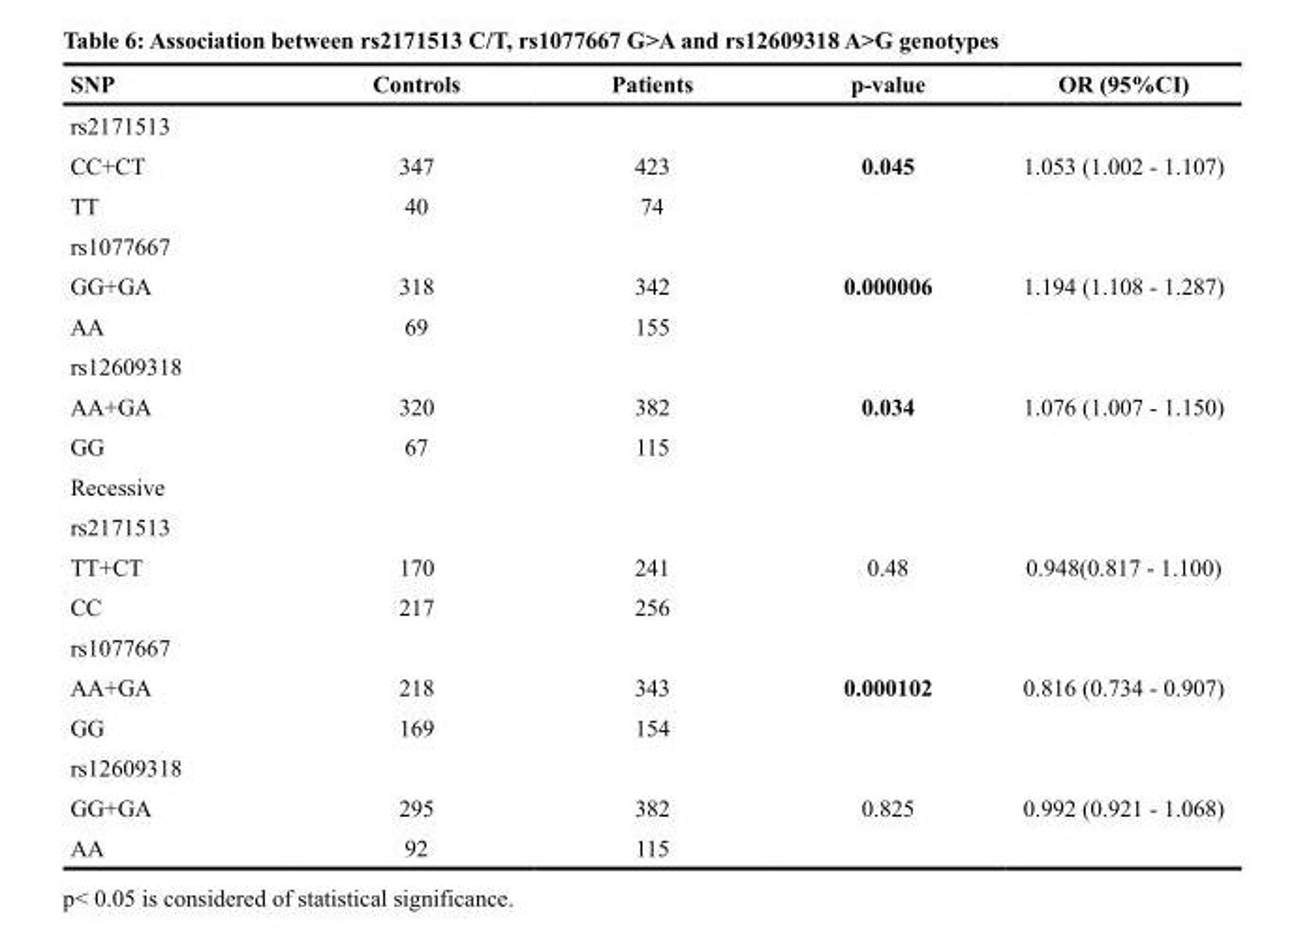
<table><thead><tr><td>SNP</td><td>Controls</td><td>Patients</td><td>p-value</td><td>OR (95%CI)</td></tr></thead><tbody><tr><td colspan="5">rs2171513</td></tr><tr><td>CC+CT</td><td>347</td><td>423</td><td>0.045</td><td>1.053 (1.002 - 1.107)</td></tr><tr><td>TT</td><td>40</td><td>74</td><td></td><td></td></tr><tr><td colspan="5">rs1077667</td></tr><tr><td>GG+GA</td><td>318</td><td>342</td><td>0.000006</td><td>1.194 (1.108 - 1.287)</td></tr><tr><td>AA</td><td>69</td><td>155</td><td></td><td></td></tr><tr><td colspan="5">rs12609318</td></tr><tr><td>AA+GA</td><td>320</td><td>382</td><td>0.034</td><td>1.076 (1.007 - 1.150)</td></tr><tr><td>GG</td><td>67</td><td>115</td><td></td><td></td></tr><tr><td colspan="5">Recessive</td></tr><tr><td colspan="5">rs2171513</td></tr><tr><td>TT+CT</td><td>170</td><td>241</td><td>0.48</td><td>0.948(0.817 - 1.100)</td></tr><tr><td>CC</td><td>217</td><td>256</td><td></td><td></td></tr><tr><td colspan="5">rs1077667</td></tr><tr><td>AA+GA</td><td>218</td><td>343</td><td>0.000102</td><td>0.816 (0.734 - 0.907)</td></tr><tr><td>GG</td><td>169</td><td>154</td><td></td><td></td></tr><tr><td colspan="5">rs12609318</td></tr><tr><td>GG+GA</td><td>295</td><td>382</td><td>0.825</td><td>0.992 (0.921 - 1.068)</td></tr><tr><td>AA</td><td>92</td><td>115</td><td></td><td></td></tr></tbody></table>